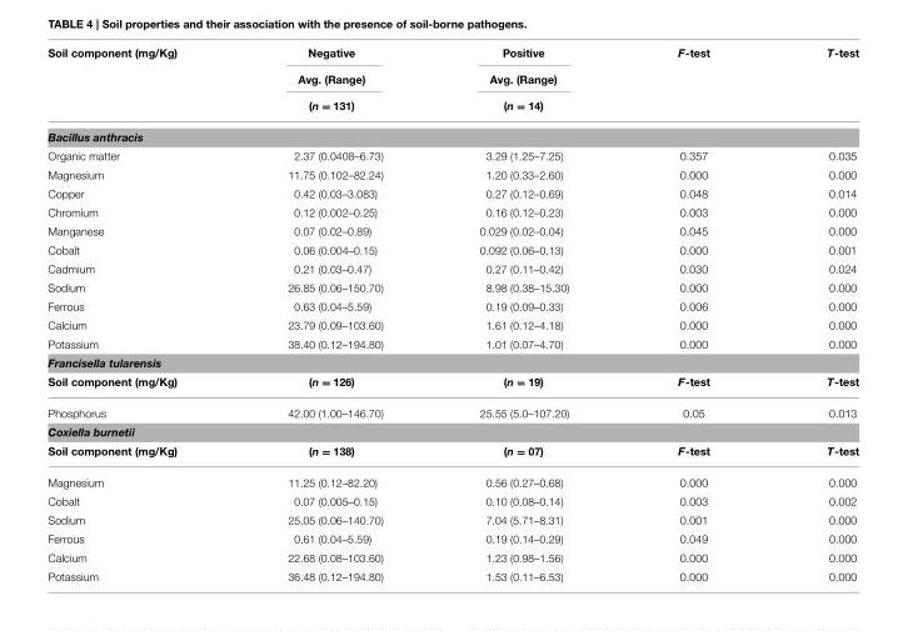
<table><thead><tr><td rowspan="3">Soil component (mg/Kg)</td><td rowspan="3">Negative Avg. (Range) (n = 131)</td><td rowspan="3">Positive Avg. (Range) (n = 14)</td><td rowspan="3">F-test</td><td rowspan="3">T-test</td></tr><tr></tr><tr></tr></thead><tbody><tr><td colspan="5">Bacillus anthracis</td></tr><tr><td>Organic matter</td><td>2.37 (0.0408–6.73)</td><td>3.29 (1.25–7.25)</td><td>0.357</td><td>0.035</td></tr><tr><td>Magnesium</td><td>11.75 (0.102–82.24)</td><td>1.20 (0.33–2.60)</td><td>0.000</td><td>0.000</td></tr><tr><td>Copper</td><td>0.42 (0.03–3.083)</td><td>0.27 (0.12–0.69)</td><td>0.048</td><td>0.014</td></tr><tr><td>Chromium</td><td>0.12 (0.002–0.25)</td><td>0.16 (0.12–0.23)</td><td>0.003</td><td>0.000</td></tr><tr><td>Manganese</td><td>0.07 (0.02–0.89)</td><td>0.029 (0.02–0.04)</td><td>0.045</td><td>0.000</td></tr><tr><td>Cobalt</td><td>0.06 (0.004–0.15)</td><td>0.092 (0.06–0.13)</td><td>0.000</td><td>0.001</td></tr><tr><td>Cadmium</td><td>0.21 (0.03–0.47)</td><td>0.27 (0.11–0.42)</td><td>0.030</td><td>0.024</td></tr><tr><td>Sodium</td><td>26.85 (0.06–150.70)</td><td>8.98 (0.38–15.30)</td><td>0.000</td><td>0.000</td></tr><tr><td>Ferrous</td><td>0.63 (0.04–5.59)</td><td>0.19 (0.09–0.33)</td><td>0.006</td><td>0.000</td></tr><tr><td>Calcium</td><td>23.79 (0.09–103.60)</td><td>1.61 (0.12–4.18)</td><td>0.000</td><td>0.000</td></tr><tr><td>Potassium</td><td>38.40 (0.12–194.80)</td><td>1.01 (0.07–4.70)</td><td>0.000</td><td>0.000</td></tr><tr><td colspan="5">Francisella tularensis</td></tr><tr><td>Soil component (mg/Kg)</td><td>(n = 126)</td><td>(n = 19)</td><td>F-test</td><td>T-test</td></tr><tr><td>Phosphorus</td><td>42.00 (1.00–146.70)</td><td>25.55 (5.0–107.20)</td><td>0.05</td><td>0.013</td></tr><tr><td colspan="5">Coxiella burnetii</td></tr><tr><td>Soil component (mg/Kg)</td><td>(n = 138)</td><td>(n = 07)</td><td>F-test</td><td>T-test</td></tr><tr><td>Magnesium</td><td>11.25 (0.12–82.20)</td><td>0.56 (0.27–0.68)</td><td>0.000</td><td>0.000</td></tr><tr><td>Cobalt</td><td>0.07 (0.005–0.15)</td><td>0.10 (0.08–0.14)</td><td>0.003</td><td>0.002</td></tr><tr><td>Sodium</td><td>25.05 (0.06–140.70)</td><td>7.04 (5.71–8.31)</td><td>0.001</td><td>0.000</td></tr><tr><td>Ferrous</td><td>0.61 (0.04–5.59)</td><td>0.19 (0.14–0.29)</td><td>0.049</td><td>0.000</td></tr><tr><td>Calcium</td><td>22.68 (0.08–103.60)</td><td>1.23 (0.98–1.56)</td><td>0.000</td><td>0.000</td></tr><tr><td>Potassium</td><td>36.48 (0.12–194.80)</td><td>1.53 (0.11–6.53)</td><td>0.000</td><td>0.000</td></tr></tbody></table>